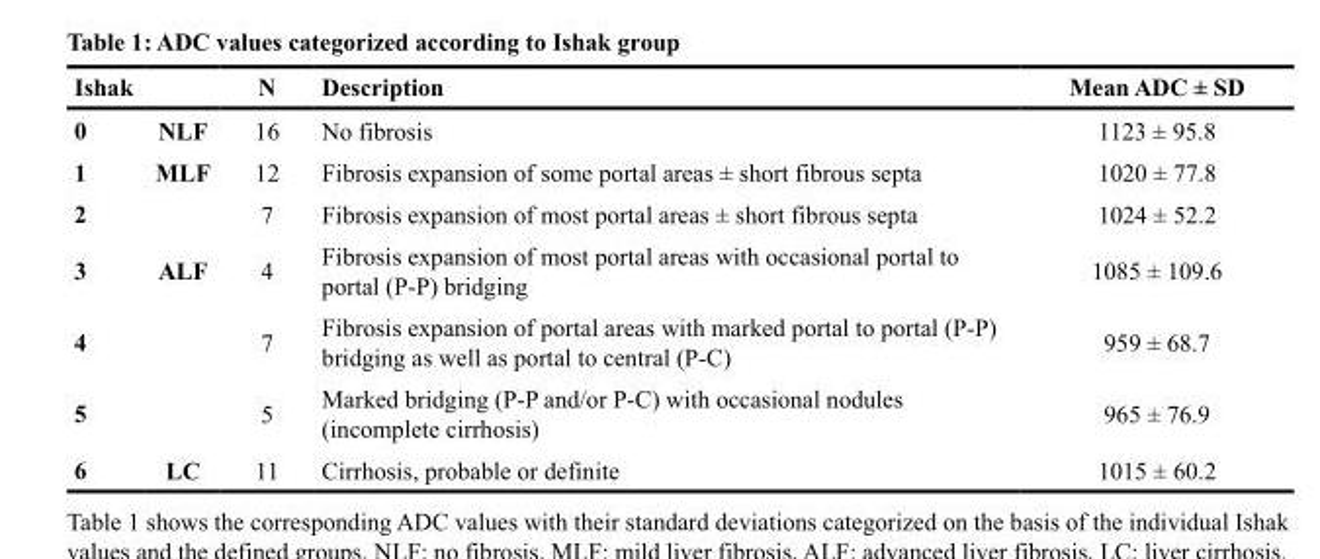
<table><thead><tr><td>Ishak</td><td></td><td>N</td><td>Description</td><td>Mean ADC ± SD</td></tr></thead><tbody><tr><td>0</td><td>NLF</td><td>16</td><td>No fibrosis</td><td>1123 ± 95.8</td></tr><tr><td>1</td><td>MLF</td><td>12</td><td>Fibrosis expansion of some portal areas ± short fibrous septa</td><td>1020 ± 77.8</td></tr><tr><td>2</td><td></td><td>7</td><td>Fibrosis expansion of most portal areas ± short fibrous septa</td><td>1024 ± 52.2</td></tr><tr><td>3</td><td>ALF</td><td>4</td><td>Fibrosis expansion of most portal areas with occasional portal to portal (P-P) bridging</td><td>1085 ± 109.6</td></tr><tr><td>4</td><td></td><td>7</td><td>Fibrosis expansion of portal areas with marked portal to portal (P-P) bridging as well as portal to central (P-C)</td><td>959 ± 68.7</td></tr><tr><td>5</td><td></td><td>5</td><td>Marked bridging (P-P and/or P-C) with occasional nodules (incomplete cirrhosis)</td><td>965 ± 76.9</td></tr><tr><td>6</td><td>LC</td><td>11</td><td>Cirrhosis, probable or definite</td><td>1015 ± 60.2</td></tr></tbody></table>